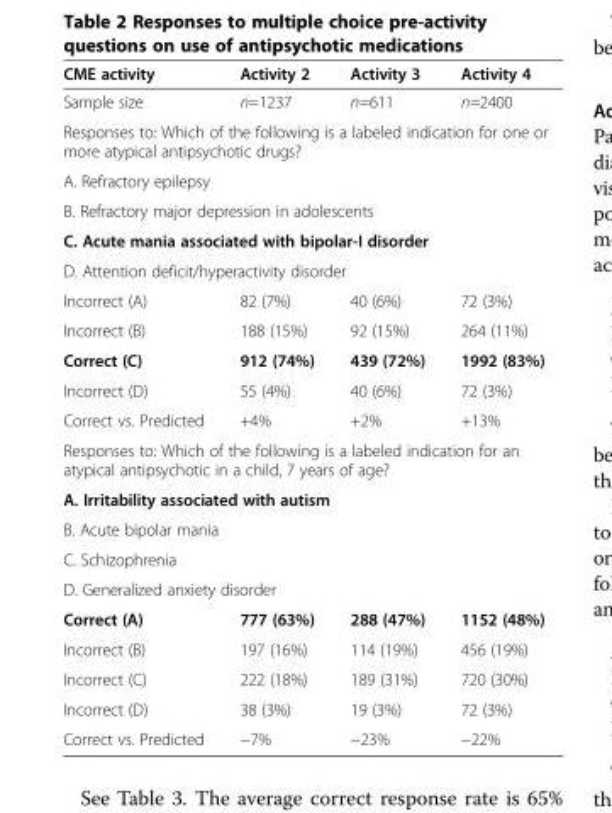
<table><thead><tr><td>CME activity</td><td>Activity 2</td><td>Activity 3</td><td>Activity 4</td></tr></thead><tbody><tr><td>Sample size</td><td>n=1237</td><td>n=611</td><td>n=2400</td></tr><tr><td colspan="4">Responses to: Which of the following is a labeled indication for one or more atypical antipsychotic drugs?</td></tr><tr><td colspan="4">A. Refractory epilepsy</td></tr><tr><td colspan="4">B. Refractory major depression in adolescents</td></tr><tr><td colspan="4">C. Acute mania associated with bipolar-I disorder</td></tr><tr><td colspan="4">D. Attention deficit/hyperactivity disorder</td></tr><tr><td>Incorrect (A)</td><td>82 (7%)</td><td>40 (6%)</td><td>72 (3%)</td></tr><tr><td>Incorrect (B)</td><td>188 (15%)</td><td>92 (15%)</td><td>264 (11%)</td></tr><tr><td>Correct (C)</td><td>912 (74%)</td><td>439 (72%)</td><td>1992 (83%)</td></tr><tr><td>Incorrect (D)</td><td>55 (4%)</td><td>40 (6%)</td><td>72 (3%)</td></tr><tr><td>Correct vs. Predicted</td><td>+4%</td><td>+2%</td><td>+13%</td></tr><tr><td colspan="4">Responses to: Which of the following is a labeled indication for an atypical antipsychotic in a child, 7 years of age?</td></tr><tr><td colspan="4">A. Irritability associated with autism</td></tr><tr><td colspan="4">B. Acute bipolar mania</td></tr><tr><td colspan="4">C. Schizophrenia</td></tr><tr><td colspan="4">D. Generalized anxiety disorder</td></tr><tr><td>Correct (A)</td><td>777 (63%)</td><td>288 (47%)</td><td>1152 (48%)</td></tr><tr><td>Incorrect (B)</td><td>197 (16%)</td><td>114 (19%)</td><td>456 (19%)</td></tr><tr><td>Incorrect (C)</td><td>222 (18%)</td><td>189 (31%)</td><td>720 (30%)</td></tr><tr><td>Incorrect (D)</td><td>38 (3%)</td><td>19 (3%)</td><td>72 (3%)</td></tr><tr><td>Correct vs. Predicted</td><td>−7%</td><td>−23%</td><td>−22%</td></tr></tbody></table>